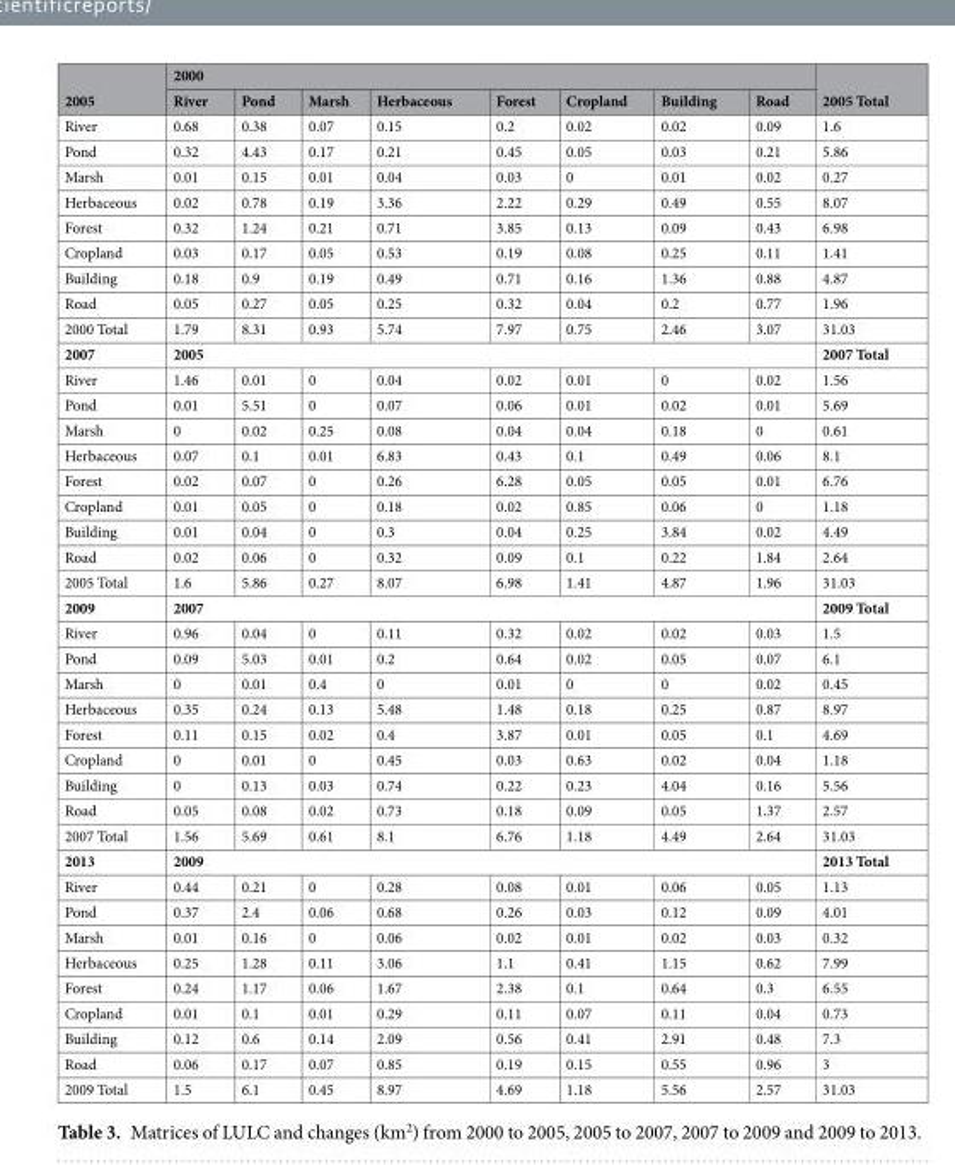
<table><thead><tr><td rowspan="2">2005</td><td colspan="8">2000</td><td rowspan="2">2005 Total</td></tr><tr><td>River</td><td>Pond</td><td>Marsh</td><td>Herbaceous</td><td>Forest</td><td>Cropland</td><td>Building</td><td>Road</td></tr></thead><tbody><tr><td>River</td><td>0.68</td><td>0.38</td><td>0.07</td><td>0.15</td><td>0.2</td><td>0.02</td><td>0.02</td><td>0.09</td><td>1.6</td></tr><tr><td>Pond</td><td>0.32</td><td>4.43</td><td>0.17</td><td>0.21</td><td>0.45</td><td>0.05</td><td>0.03</td><td>0.21</td><td>5.86</td></tr><tr><td>Marsh</td><td>0.01</td><td>0.15</td><td>0.01</td><td>0.04</td><td>0.03</td><td>0</td><td>0.01</td><td>0.02</td><td>0.27</td></tr><tr><td>Herbaceous</td><td>0.02</td><td>0.78</td><td>0.19</td><td>3.36</td><td>2.22</td><td>0.29</td><td>0.49</td><td>0.55</td><td>8.07</td></tr><tr><td>Forest</td><td>0.32</td><td>1.24</td><td>0.21</td><td>0.71</td><td>3.85</td><td>0.13</td><td>0.09</td><td>0.43</td><td>6.98</td></tr><tr><td>Cropland</td><td>0.03</td><td>0.17</td><td>0.05</td><td>0.53</td><td>0.19</td><td>0.08</td><td>0.25</td><td>0.11</td><td>1.41</td></tr><tr><td>Building</td><td>0.18</td><td>0.9</td><td>0.19</td><td>0.49</td><td>0.71</td><td>0.16</td><td>1.36</td><td>0.88</td><td>4.87</td></tr><tr><td>Road</td><td>0.05</td><td>0.27</td><td>0.05</td><td>0.25</td><td>0.32</td><td>0.04</td><td>0.2</td><td>0.77</td><td>1.96</td></tr><tr><td>2000 Total</td><td>1.79</td><td>8.31</td><td>0.93</td><td>5.74</td><td>7.97</td><td>0.75</td><td>2.46</td><td>3.07</td><td>31.03</td></tr><tr><td>2007</td><td colspan="8">2005</td><td>2007 Total</td></tr><tr><td>River</td><td>1.46</td><td>0.01</td><td>0</td><td>0.04</td><td>0.02</td><td>0.01</td><td>0</td><td>0.02</td><td>1.56</td></tr><tr><td>Pond</td><td>0.01</td><td>5.51</td><td>0</td><td>0.07</td><td>0.06</td><td>0.01</td><td>0.02</td><td>0.01</td><td>5.69</td></tr><tr><td>Marsh</td><td>0</td><td>0.02</td><td>0.25</td><td>0.08</td><td>0.04</td><td>0.04</td><td>0.18</td><td>0</td><td>0.61</td></tr><tr><td>Herbaceous</td><td>0.07</td><td>0.1</td><td>0.01</td><td>6.83</td><td>0.43</td><td>0.1</td><td>0.49</td><td>0.06</td><td>8.1</td></tr><tr><td>Forest</td><td>0.02</td><td>0.07</td><td>0</td><td>0.26</td><td>6.28</td><td>0.05</td><td>0.05</td><td>0.01</td><td>6.76</td></tr><tr><td>Cropland</td><td>0.01</td><td>0.05</td><td>0</td><td>0.18</td><td>0.02</td><td>0.85</td><td>0.06</td><td>0</td><td>1.18</td></tr><tr><td>Building</td><td>0.01</td><td>0.04</td><td>0</td><td>0.3</td><td>0.04</td><td>0.25</td><td>3.84</td><td>0.02</td><td>4.49</td></tr><tr><td>Road</td><td>0.02</td><td>0.06</td><td>0</td><td>0.32</td><td>0.09</td><td>0.1</td><td>0.22</td><td>1.84</td><td>2.64</td></tr><tr><td>2005 Total</td><td>1.6</td><td>5.86</td><td>0.27</td><td>8.07</td><td>6.98</td><td>1.41</td><td>4.87</td><td>1.96</td><td>31.03</td></tr><tr><td>2009</td><td colspan="8">2007</td><td>2009 Total</td></tr><tr><td>River</td><td>0.96</td><td>0.04</td><td>0</td><td>0.11</td><td>0.32</td><td>0.02</td><td>0.02</td><td>0.03</td><td>1.5</td></tr><tr><td>Pond</td><td>0.09</td><td>5.03</td><td>0.01</td><td>0.2</td><td>0.64</td><td>0.02</td><td>0.05</td><td>0.07</td><td>6.1</td></tr><tr><td>Marsh</td><td>0</td><td>0.01</td><td>0.4</td><td>0</td><td>0.01</td><td>0</td><td>0</td><td>0.02</td><td>0.45</td></tr><tr><td>Herbaceous</td><td>0.35</td><td>0.24</td><td>0.13</td><td>5.48</td><td>1.48</td><td>0.18</td><td>0.25</td><td>0.87</td><td>8.97</td></tr><tr><td>Forest</td><td>0.11</td><td>0.15</td><td>0.02</td><td>0.4</td><td>3.87</td><td>0.01</td><td>0.05</td><td>0.1</td><td>4.69</td></tr><tr><td>Cropland</td><td>0</td><td>0.01</td><td>0</td><td>0.45</td><td>0.03</td><td>0.63</td><td>0.02</td><td>0.04</td><td>1.18</td></tr><tr><td>Building</td><td>0</td><td>0.13</td><td>0.03</td><td>0.74</td><td>0.22</td><td>0.23</td><td>4.04</td><td>0.16</td><td>5.56</td></tr><tr><td>Road</td><td>0.05</td><td>0.08</td><td>0.02</td><td>0.73</td><td>0.18</td><td>0.09</td><td>0.05</td><td>1.37</td><td>2.57</td></tr><tr><td>2007 Total</td><td>1.56</td><td>5.69</td><td>0.61</td><td>8.1</td><td>6.76</td><td>1.18</td><td>4.49</td><td>2.64</td><td>31.03</td></tr><tr><td>2013</td><td colspan="8">2009</td><td>2013 Total</td></tr><tr><td>River</td><td>0.44</td><td>0.21</td><td>0</td><td>0.28</td><td>0.08</td><td>0.01</td><td>0.06</td><td>0.05</td><td>1.13</td></tr><tr><td>Pond</td><td>0.37</td><td>2.4</td><td>0.06</td><td>0.68</td><td>0.26</td><td>0.03</td><td>0.12</td><td>0.09</td><td>4.01</td></tr><tr><td>Marsh</td><td>0.01</td><td>0.16</td><td>0</td><td>0.06</td><td>0.02</td><td>0.01</td><td>0.02</td><td>0.03</td><td>0.32</td></tr><tr><td>Herbaceous</td><td>0.25</td><td>1.28</td><td>0.11</td><td>3.06</td><td>1.1</td><td>0.41</td><td>1.15</td><td>0.62</td><td>7.99</td></tr><tr><td>Forest</td><td>0.24</td><td>1.17</td><td>0.06</td><td>1.67</td><td>2.38</td><td>0.1</td><td>0.64</td><td>0.3</td><td>6.55</td></tr><tr><td>Cropland</td><td>0.01</td><td>0.1</td><td>0.01</td><td>0.29</td><td>0.11</td><td>0.07</td><td>0.11</td><td>0.04</td><td>0.73</td></tr><tr><td>Building</td><td>0.12</td><td>0.6</td><td>0.14</td><td>2.09</td><td>0.56</td><td>0.41</td><td>2.91</td><td>0.48</td><td>7.3</td></tr><tr><td>Road</td><td>0.06</td><td>0.17</td><td>0.07</td><td>0.85</td><td>0.19</td><td>0.15</td><td>0.55</td><td>0.96</td><td>3</td></tr><tr><td>2009 Total</td><td>1.5</td><td>6.1</td><td>0.45</td><td>8.97</td><td>4.69</td><td>1.18</td><td>5.56</td><td>2.57</td><td>31.03</td></tr></tbody></table>